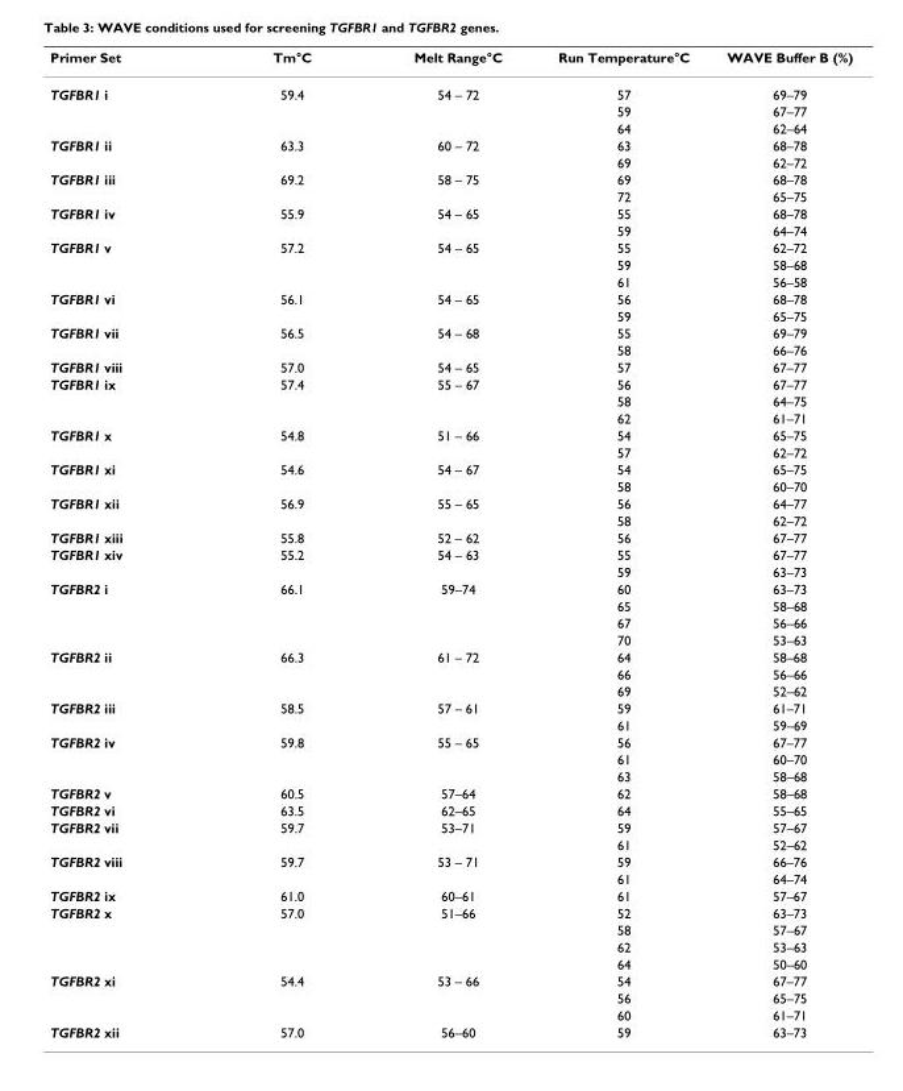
<table><thead><tr><td>Primer Set</td><td>Tm°C</td><td>Melt Range°C</td><td>Run Temperature°C</td><td>WAVE Buffer B (%)</td></tr></thead><tbody><tr><td rowspan="3">TGFBR1 i</td><td>59.4</td><td>54 – 72</td><td>57</td><td>69–79</td></tr><tr><td></td><td></td><td>59</td><td>67–77</td></tr><tr><td></td><td></td><td>64</td><td>62–64</td></tr><tr><td rowspan="2">TGFBR1 ii</td><td>63.3</td><td>60 – 72</td><td>63</td><td>68–78</td></tr><tr><td></td><td></td><td>69</td><td>62–72</td></tr><tr><td rowspan="2">TGFBR1 iii</td><td>69.2</td><td>58 – 75</td><td>69</td><td>68–78</td></tr><tr><td></td><td></td><td>72</td><td>65–75</td></tr><tr><td rowspan="2">TGFBR1 iv</td><td>55.9</td><td>54 – 65</td><td>55</td><td>68–78</td></tr><tr><td></td><td></td><td>59</td><td>64–74</td></tr><tr><td rowspan="3">TGFBR1 v</td><td>57.2</td><td>54 – 65</td><td>55</td><td>62–72</td></tr><tr><td></td><td></td><td>59</td><td>58–68</td></tr><tr><td></td><td></td><td>61</td><td>56–58</td></tr><tr><td rowspan="2">TGFBR1 vi</td><td>56.1</td><td>54 – 65</td><td>56</td><td>68–78</td></tr><tr><td></td><td></td><td>59</td><td>65–75</td></tr><tr><td rowspan="2">TGFBR1 vii</td><td>56.5</td><td>54 – 68</td><td>55</td><td>69–79</td></tr><tr><td></td><td></td><td>58</td><td>66–76</td></tr><tr><td>TGFBR1 viii</td><td>57.0</td><td>54 – 65</td><td>57</td><td>67–77</td></tr><tr><td rowspan="3">TGFBR1 ix</td><td>57.4</td><td>55 – 67</td><td>56</td><td>67–77</td></tr><tr><td></td><td></td><td>58</td><td>64–75</td></tr><tr><td></td><td></td><td>62</td><td>61–71</td></tr><tr><td rowspan="2">TGFBR1 x</td><td>54.8</td><td>51 – 66</td><td>54</td><td>65–75</td></tr><tr><td></td><td></td><td>57</td><td>62–72</td></tr><tr><td rowspan="2">TGFBR1 xi</td><td>54.6</td><td>54 – 67</td><td>54</td><td>65–75</td></tr><tr><td></td><td></td><td>58</td><td>60–70</td></tr><tr><td rowspan="2">TGFBR1 xii</td><td>56.9</td><td>55 – 65</td><td>56</td><td>64–77</td></tr><tr><td></td><td></td><td>58</td><td>62–72</td></tr><tr><td>TGFBR1 xiii</td><td>55.8</td><td>52 – 62</td><td>56</td><td>67–77</td></tr><tr><td rowspan="2">TGFBR1 xiv</td><td>55.2</td><td>54 – 63</td><td>55</td><td>67–77</td></tr><tr><td></td><td></td><td>59</td><td>63–73</td></tr><tr><td rowspan="4">TGFBR2 i</td><td>66.1</td><td>59–74</td><td>60</td><td>63–73</td></tr><tr><td></td><td></td><td>65</td><td>58–68</td></tr><tr><td></td><td></td><td>67</td><td>56–66</td></tr><tr><td></td><td></td><td>70</td><td>53–63</td></tr><tr><td rowspan="3">TGFBR2 ii</td><td>66.3</td><td>61 – 72</td><td>64</td><td>58–68</td></tr><tr><td></td><td></td><td>66</td><td>56–66</td></tr><tr><td></td><td></td><td>69</td><td>52–62</td></tr><tr><td rowspan="2">TGFBR2 iii</td><td>58.5</td><td>57 – 61</td><td>59</td><td>61–71</td></tr><tr><td></td><td></td><td>61</td><td>59–69</td></tr><tr><td rowspan="3">TGFBR2 iv</td><td>59.8</td><td>55 – 65</td><td>56</td><td>67–77</td></tr><tr><td></td><td></td><td>61</td><td>60–70</td></tr><tr><td></td><td></td><td>63</td><td>58–68</td></tr><tr><td>TGFBR2 v</td><td>60.5</td><td>57–64</td><td>62</td><td>58–68</td></tr><tr><td>TGFBR2 vi</td><td>63.5</td><td>62–65</td><td>64</td><td>55–65</td></tr><tr><td rowspan="2">TGFBR2 vii</td><td>59.7</td><td>53–71</td><td>59</td><td>57–67</td></tr><tr><td></td><td></td><td>61</td><td>52–62</td></tr><tr><td rowspan="2">TGFBR2 viii</td><td>59.7</td><td>53 – 71</td><td>59</td><td>66–76</td></tr><tr><td></td><td></td><td>61</td><td>64–74</td></tr><tr><td>TGFBR2 ix</td><td>61.0</td><td>60–61</td><td>61</td><td>57–67</td></tr><tr><td rowspan="4">TGFBR2 x</td><td>57.0</td><td>51–66</td><td>52</td><td>63–73</td></tr><tr><td></td><td></td><td>58</td><td>57–67</td></tr><tr><td></td><td></td><td>62</td><td>53–63</td></tr><tr><td></td><td></td><td>64</td><td>50–60</td></tr><tr><td rowspan="3">TGFBR2 xi</td><td>54.4</td><td>53 – 66</td><td>54</td><td>67–77</td></tr><tr><td></td><td></td><td>56</td><td>65–75</td></tr><tr><td></td><td></td><td>60</td><td>61–71</td></tr><tr><td>TGFBR2 xii</td><td>57.0</td><td>56–60</td><td>59</td><td>63–73</td></tr></tbody></table>